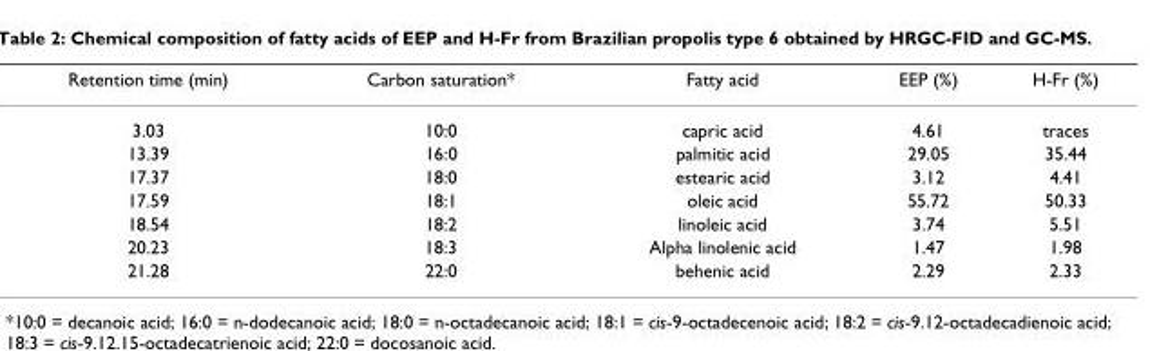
<table><thead><tr><td>Retention time (min)</td><td>Carbon saturation*</td><td>Fatty acid</td><td>EEP (%)</td><td>H-Fr (%)</td></tr></thead><tbody><tr><td>3.03</td><td>10:0</td><td>capric acid</td><td>4.61</td><td>traces</td></tr><tr><td>13.39</td><td>16:0</td><td>palmitic acid</td><td>29.05</td><td>35.44</td></tr><tr><td>17.37</td><td>18:0</td><td>estearic acid</td><td>3.12</td><td>4.41</td></tr><tr><td>17.59</td><td>18:1</td><td>oleic acid</td><td>55.72</td><td>50.33</td></tr><tr><td>18.54</td><td>18:2</td><td>linoleic acid</td><td>3.74</td><td>5.51</td></tr><tr><td>20.23</td><td>18:3</td><td>Alpha linolenic acid</td><td>1.47</td><td>1.98</td></tr><tr><td>21.28</td><td>22:0</td><td>behenic acid</td><td>2.29</td><td>2.33</td></tr></tbody></table>